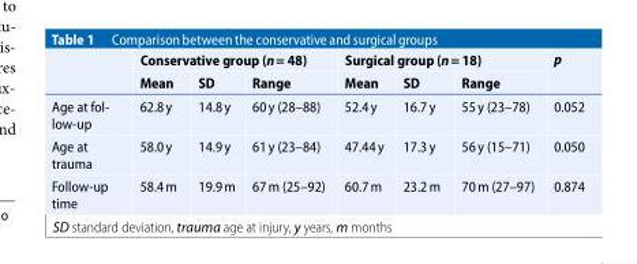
<table><thead><tr><td rowspan="2"></td><td colspan="3">Conservative group (n= 48)</td><td colspan="3">Surgical group (n= 18)</td><td rowspan="2">p</td></tr><tr><td>Mean</td><td>SD</td><td>Range</td><td>Mean</td><td>SD</td><td>Range</td></tr></thead><tbody><tr><td>Age at fol- low-up</td><td>62.8y</td><td>14.8y</td><td>60y (28–88)</td><td>52.4y</td><td>16.7y</td><td>55y (23–78)</td><td>0.052</td></tr><tr><td>Age at trauma</td><td>58.0y</td><td>14.9y</td><td>61y (23–84)</td><td>47.44y</td><td>17.3y</td><td>56y (15–71)</td><td>0.050</td></tr><tr><td>Follow-up time</td><td>58.4m</td><td>19.9m</td><td>67m (25–92)</td><td>60.7m</td><td>23.2m</td><td>70m (27–97)</td><td>0.874</td></tr></tbody></table>